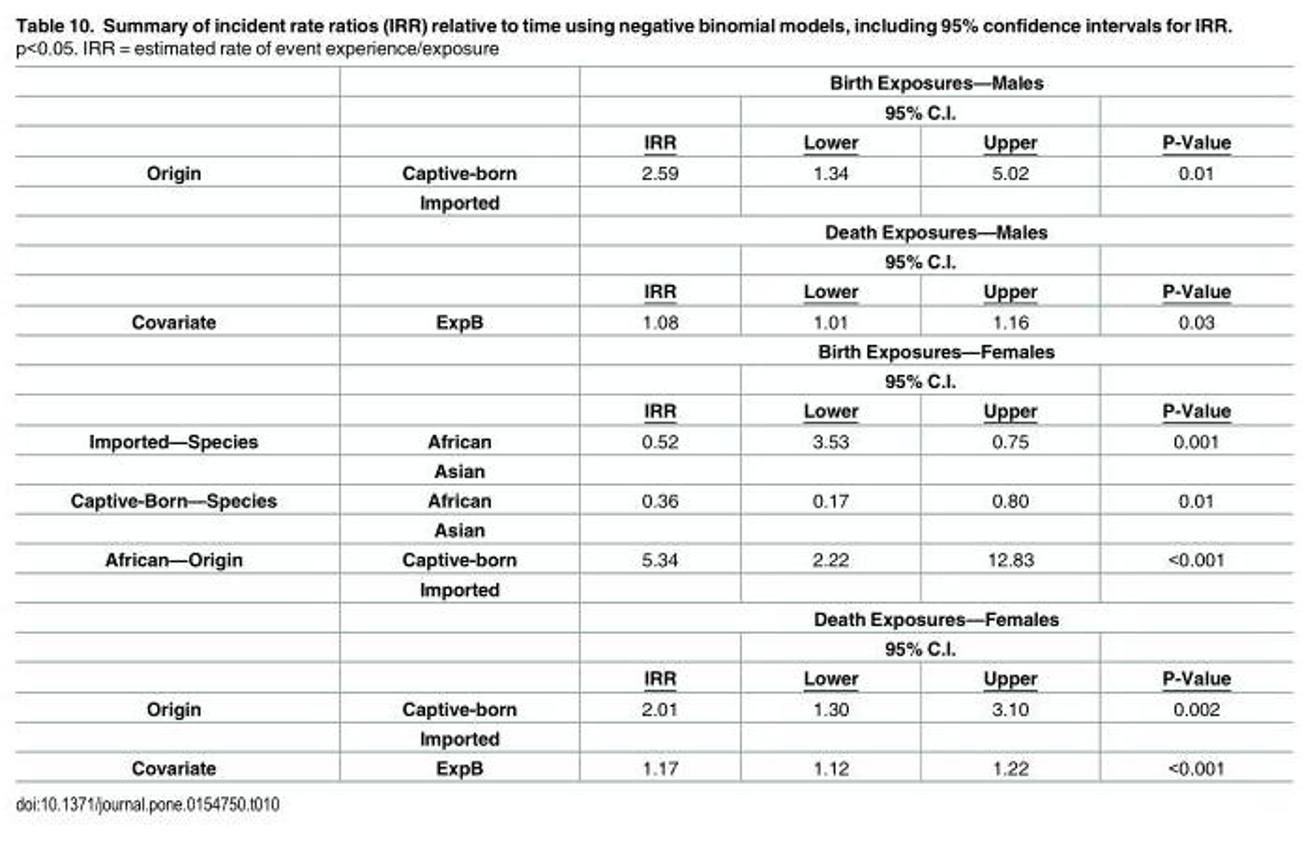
<table><thead><tr><td rowspan="3"></td><td rowspan="3"></td><td colspan="4">Birth Exposures—Males</td></tr><tr><td rowspan="2">IRR</td><td colspan="2">95% C.I.</td><td rowspan="2">P-Value</td></tr><tr><td>Lower</td><td>Upper</td></tr></thead><tbody><tr><td rowspan="5">Origin</td><td>Captive-born</td><td>2.59</td><td>1.34</td><td>5.02</td><td>0.01</td></tr><tr><td>Imported</td><td></td><td></td><td></td><td></td></tr><tr><td></td><td colspan="4">Death Exposures—Males</td></tr><tr><td></td><td></td><td colspan="2">95% C.I.</td><td></td></tr><tr><td></td><td>IRR</td><td>Lower</td><td>Upper</td><td>P-Value</td></tr><tr><td rowspan="4">Covariate</td><td>ExpB</td><td>1.08</td><td>1.01</td><td>1.16</td><td>0.03</td></tr><tr><td></td><td colspan="4">Birth Exposures—Females</td></tr><tr><td></td><td></td><td colspan="2">95% C.I.</td><td></td></tr><tr><td></td><td>IRR</td><td>Lower</td><td>Upper</td><td>P-Value</td></tr><tr><td rowspan="2">Imported—Species</td><td>African</td><td>0.52</td><td>3.53</td><td>0.75</td><td>0.001</td></tr><tr><td>Asian</td><td></td><td></td><td></td><td></td></tr><tr><td rowspan="2">Captive-Born—Species</td><td>African</td><td>0.36</td><td>0.17</td><td>0.80</td><td>0.01</td></tr><tr><td>Asian</td><td></td><td></td><td></td><td></td></tr><tr><td rowspan="5">African—Origin</td><td>Captive-born</td><td>5.34</td><td>2.22</td><td>12.83</td><td>&lt;0.001</td></tr><tr><td>Imported</td><td></td><td></td><td></td><td></td></tr><tr><td></td><td colspan="4">Death Exposures—Females</td></tr><tr><td></td><td></td><td colspan="2">95% C.I.</td><td></td></tr><tr><td></td><td>IRR</td><td>Lower</td><td>Upper</td><td>P-Value</td></tr><tr><td rowspan="2">Origin</td><td>Captive-born</td><td>2.01</td><td>1.30</td><td>3.10</td><td>0.002</td></tr><tr><td>Imported</td><td></td><td></td><td></td><td></td></tr><tr><td>Covariate</td><td>ExpB</td><td>1.17</td><td>1.12</td><td>1.22</td><td>&lt;0.001</td></tr></tbody></table>